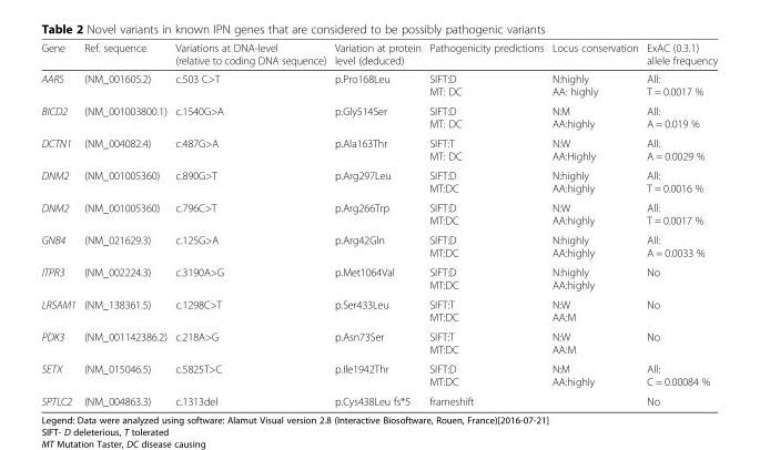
<table><thead><tr><td>Gene</td><td>Ref. sequence</td><td>Variations at DNA-level (relative to coding DNA sequence)</td><td>Variation at protein level (deduced)</td><td>Pathogenicity predictions</td><td>Locus conservation</td><td>ExAC (0.3.1) allele frequency</td></tr></thead><tbody><tr><td>AARS</td><td>(NM_001605.2)</td><td>c.503 C&gt;T</td><td>p.Pro168Leu</td><td>SIFT:D MT: DC</td><td>N:highly AA: highly</td><td>All: T = 0.0017 %</td></tr><tr><td>BICD2</td><td>(NM_001003800.1)</td><td>c.1540G&gt;A</td><td>p.Gly514Ser</td><td>SIFT:D MT: DC</td><td>N:M AA:highly</td><td>All: A = 0.019 %</td></tr><tr><td>DCTN1</td><td>(NM_004082.4)</td><td>c.487G&gt;A</td><td>p.Ala163Thr</td><td>SIFT:T MT: DC</td><td>N:W AA:Highly</td><td>All: A = 0.0029 %</td></tr><tr><td>DNM2</td><td>(NM_001005360)</td><td>c.890G&gt;T</td><td>p.Arg297Leu</td><td>SIFT:D MT:DC</td><td>N:highly AA:highly</td><td>All: T = 0.0016 %</td></tr><tr><td>DNM2</td><td>(NM_001005360)</td><td>c.796C&gt;T</td><td>p.Arg266Trp</td><td>SIFT:D MT:DC</td><td>N:W AA:highly</td><td>All: T = 0.0017 %</td></tr><tr><td>GNB4</td><td>(NM_021629.3)</td><td>c.125G&gt;A</td><td>p.Arg42Gln</td><td>SIFT:D MT:DC</td><td>N:highly AA:highly</td><td>All: A = 0.0033 %</td></tr><tr><td>ITPR3</td><td>(NM_002224.3)</td><td>c.3190A&gt;G</td><td>p.Met1064Val</td><td>SIFT:D MT:DC</td><td>N:highly AA:highly</td><td>No</td></tr><tr><td>LRSAM1</td><td>(NM_138361.5)</td><td>c.1298C&gt;T</td><td>p.Ser433Leu</td><td>SIFT:T MT:DC</td><td>N:W AA:M</td><td>No</td></tr><tr><td>PDK3</td><td>(NM_001142386.2)</td><td>c.218A&gt;G</td><td>p.Asn73Ser</td><td>SIFT:T MT:DC</td><td>N:W AA:M</td><td>No</td></tr><tr><td>SETX</td><td>(NM_015046.5)</td><td>c.5825T&gt;C</td><td>p.Ile1942Thr</td><td>SIFT:D MT:DC</td><td>N:M AA:highly</td><td>All: C = 0.00084 %</td></tr><tr><td>SPTLC2</td><td>(NM_004863.3)</td><td>c.1313del</td><td>p.Cys438Leu fs*5</td><td>frameshift</td><td></td><td>No</td></tr></tbody></table>